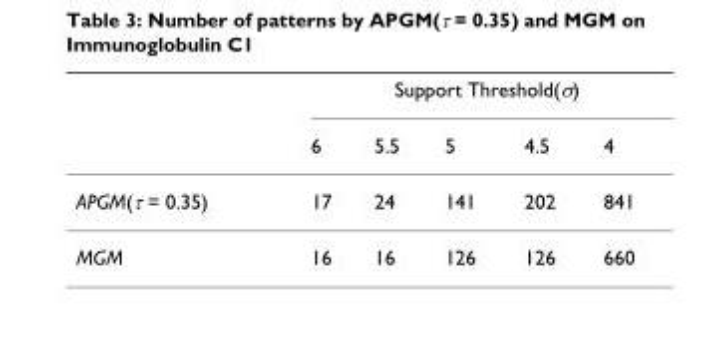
<table><thead><tr><td rowspan="2"></td><td colspan="5">Support Threshold(σ)</td></tr><tr><td>6</td><td>5.5</td><td>5</td><td>4.5</td><td>4</td></tr></thead><tbody><tr><td>APGM(τ = 0.35)</td><td>17</td><td>24</td><td>141</td><td>202</td><td>841</td></tr><tr><td>MGM</td><td>16</td><td>16</td><td>126</td><td>126</td><td>660</td></tr></tbody></table>